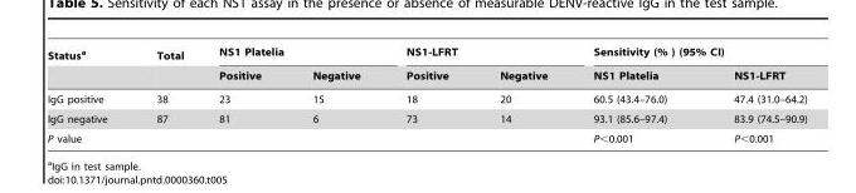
<table><thead><tr><td rowspan="2">Status<sup>a</sup></td><td rowspan="2">Total</td><td colspan="2">NS1 Platelia</td><td colspan="2">NS1-LFRT</td><td colspan="2">Sensitivity (% ) (95% CI)</td></tr><tr><td>Positive</td><td>Negative</td><td>Positive</td><td>Negative</td><td>NS1 Platelia</td><td>NS1-LFRT</td></tr></thead><tbody><tr><td>IgG positive</td><td>38</td><td>23</td><td>15</td><td>18</td><td>20</td><td>60.5 (43.4–76.0)</td><td>47.4 (31.0–64.2)</td></tr><tr><td>IgG negative</td><td>87</td><td>81</td><td>6</td><td>73</td><td>14</td><td>93.1 (85.6–97.4)</td><td>83.9 (74.5–90.9)</td></tr><tr><td>P value</td><td></td><td></td><td></td><td></td><td></td><td>P&lt;0.001</td><td>P&lt;0.001</td></tr></tbody></table>